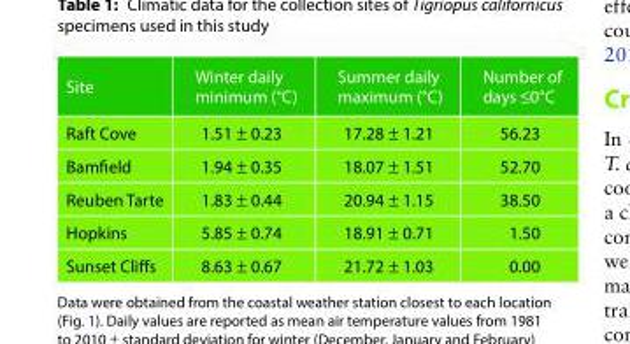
<table><thead><tr><td>Site</td><td>Winter daily minimum (°C)</td><td>Summer daily maximum (°C)</td><td>Number of days ≤0°C</td></tr></thead><tbody><tr><td>Raft Cove</td><td>1.51 ± 0.23</td><td>17.28 ± 1.21</td><td>56.23</td></tr><tr><td>Bamfield</td><td>1.94 ± 0.35</td><td>18.07 ± 1.51</td><td>52.70</td></tr><tr><td>Reuben Tarte</td><td>1.83 ± 0.44</td><td>20.94 ± 1.15</td><td>38.50</td></tr><tr><td>Hopkins</td><td>5.85 ± 0.74</td><td>18.91 ± 0.71</td><td>1.50</td></tr><tr><td>Sunset Cliffs</td><td>8.63 ± 0.67</td><td>21.72 ± 1.03</td><td>0.00</td></tr></tbody></table>